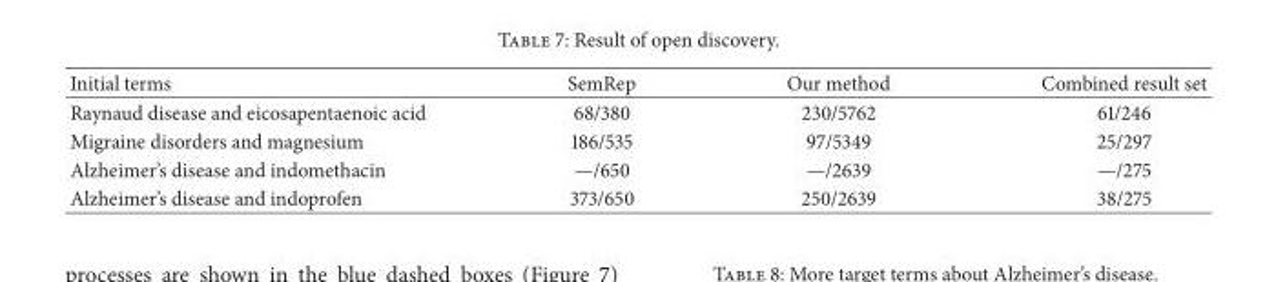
<table><thead><tr><td>Initial terms</td><td>SemRep</td><td>Our method</td><td>Combined result set</td></tr></thead><tbody><tr><td>Raynaud disease and eicosapentaenoic acid</td><td>68/380</td><td>230/5762</td><td>61/246</td></tr><tr><td>Migraine disorders and magnesium</td><td>186/535</td><td>97/5349</td><td>25/297</td></tr><tr><td>Alzheimer’s disease and indomethacin</td><td>—/650</td><td>—/2639</td><td>—/275</td></tr><tr><td>Alzheimer’s disease and indoprofen</td><td>373/650</td><td>250/2639</td><td>38/275</td></tr></tbody></table>